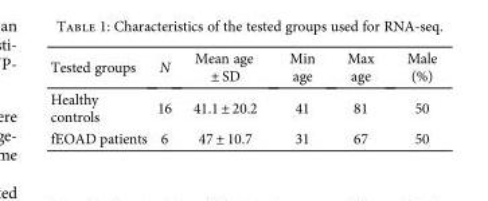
<table><thead><tr><td>Tested groups</td><td>N</td><td>Mean age ± SD</td><td>Min age</td><td>Max age</td><td>Male (%)</td></tr></thead><tbody><tr><td>Healthy controls</td><td>16</td><td>41.1 ± 20.2</td><td>41</td><td>81</td><td>50</td></tr><tr><td>fEOAD patients</td><td>6</td><td>47 ± 10.7</td><td>31</td><td>67</td><td>50</td></tr></tbody></table>